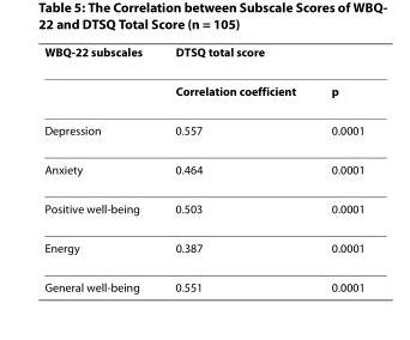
<table><thead><tr><td>WBQ-22 subscales</td><td>DTSQ total score</td><td></td></tr></thead><tbody><tr><td></td><td>Correlation coefficient</td><td>p</td></tr><tr><td>Depression</td><td>0.557</td><td>0.0001</td></tr><tr><td>Anxiety</td><td>0.464</td><td>0.0001</td></tr><tr><td>Positive well-being</td><td>0.503</td><td>0.0001</td></tr><tr><td>Energy</td><td>0.387</td><td>0.0001</td></tr><tr><td>General well-being</td><td>0.551</td><td>0.0001</td></tr></tbody></table>